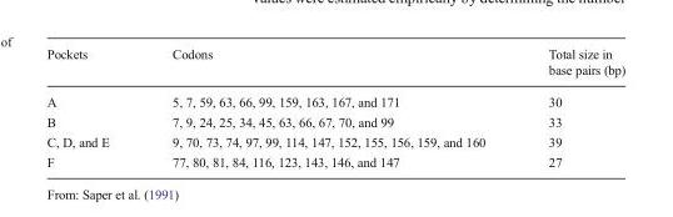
<table><thead><tr><td>Pockets</td><td>Codons</td><td>Total size in base pairs (bp)</td></tr></thead><tbody><tr><td>A</td><td>5, 7, 59, 63, 66, 99, 159, 163, 167, and 171</td><td>30</td></tr><tr><td>B</td><td>7, 9, 24, 25, 34, 45, 63, 66, 67, 70, and 99</td><td>33</td></tr><tr><td>C, D, and E</td><td>9, 70, 73, 74, 97, 99, 114, 147, 152, 155, 156, 159, and 160</td><td>39</td></tr><tr><td>F</td><td>77, 80, 81, 84, 116, 123, 143, 146, and 147</td><td>27</td></tr></tbody></table>